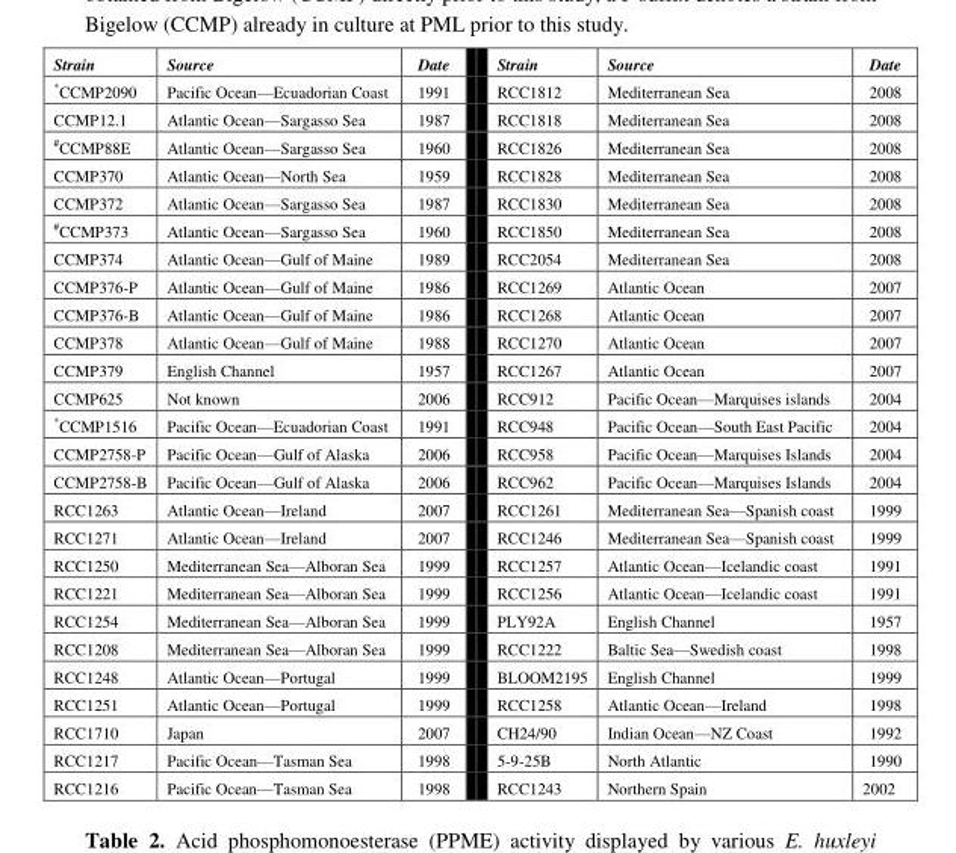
<table><thead><tr><td>Strain</td><td>Source</td><td>Date</td><td>Strain</td><td>Source</td><td>Date</td></tr></thead><tbody><tr><td>*CCMP2090</td><td>Pacific Ocean—Ecuadorian Coast</td><td>1991</td><td>RCC1812</td><td>Mediterranean Sea</td><td>2008</td></tr><tr><td>CCMP12.1</td><td>Atlantic Ocean—Sargasso Sea</td><td>1987</td><td>RCC1818</td><td>Mediterranean Sea</td><td>2008</td></tr><tr><td>#CCMP88E</td><td>Atlantic Ocean—Sargasso Sea</td><td>1960</td><td>RCC1826</td><td>Mediterranean Sea</td><td>2008</td></tr><tr><td>CCMP370</td><td>Atlantic Ocean—North Sea</td><td>1959</td><td>RCC1828</td><td>Mediterranean Sea</td><td>2008</td></tr><tr><td>CCMP372</td><td>Atlantic Ocean—Sargasso Sea</td><td>1987</td><td>RCC1830</td><td>Mediterranean Sea</td><td>2008</td></tr><tr><td>#CCMP373</td><td>Atlantic Ocean—Sargasso Sea</td><td>1960</td><td>RCC1850</td><td>Mediterranean Sea</td><td>2008</td></tr><tr><td>CCMP374</td><td>Atlantic Ocean—Gulf of Maine</td><td>1989</td><td>RCC2054</td><td>Mediterranean Sea</td><td>2008</td></tr><tr><td>CCMP376-P</td><td>Atlantic Ocean—Gulf of Maine</td><td>1986</td><td>RCC1269</td><td>Atlantic Ocean</td><td>2007</td></tr><tr><td>CCMP376-B</td><td>Atlantic Ocean—Gulf of Maine</td><td>1986</td><td>RCC1268</td><td>Atlantic Ocean</td><td>2007</td></tr><tr><td>CCMP378</td><td>Atlantic Ocean—Gulf of Maine</td><td>1988</td><td>RCC1270</td><td>Atlantic Ocean</td><td>2007</td></tr><tr><td>CCMP379</td><td>English Channel</td><td>1957</td><td>RCC1267</td><td>Atlantic Ocean</td><td>2007</td></tr><tr><td>CCMP625</td><td>Not known</td><td>2006</td><td>RCC912</td><td>Pacific Ocean—Marquises islands</td><td>2004</td></tr><tr><td>*CCMP1516</td><td>Pacific Ocean—Ecuadorian Coast</td><td>1991</td><td>RCC948</td><td>Pacific Ocean—South East Pacific</td><td>2004</td></tr><tr><td>CCMP2758-P</td><td>Pacific Ocean—Gulf of Alaska</td><td>2006</td><td>RCC958</td><td>Pacific Ocean—Marquises Islands</td><td>2004</td></tr><tr><td>CCMP2758-B</td><td>Pacific Ocean—Gulf of Alaska</td><td>2006</td><td>RCC962</td><td>Pacific Ocean—Marquises Islands</td><td>2004</td></tr><tr><td>RCC1263</td><td>Atlantic Ocean—Ireland</td><td>2007</td><td>RCC1261</td><td>Mediterranean Sea—Spanish coast</td><td>1999</td></tr><tr><td>RCC1271</td><td>Atlantic Ocean—Ireland</td><td>2007</td><td>RCC1246</td><td>Mediterranean Sea—Spanish coast</td><td>1999</td></tr><tr><td>RCC1250</td><td>Mediterranean Sea—Alboran Sea</td><td>1999</td><td>RCC1257</td><td>Atlantic Ocean—Icelandic coast</td><td>1991</td></tr><tr><td>RCC1221</td><td>Mediterranean Sea—Alboran Sea</td><td>1999</td><td>RCC1256</td><td>Atlantic Ocean—Icelandic coast</td><td>1991</td></tr><tr><td>RCC1254</td><td>Mediterranean Sea—Alboran Sea</td><td>1999</td><td>PLY92A</td><td>English Channel</td><td>1957</td></tr><tr><td>RCC1208</td><td>Mediterranean Sea—Alboran Sea</td><td>1999</td><td>RCC1222</td><td>Baltic Sea—Swedish coast</td><td>1998</td></tr><tr><td>RCC1248</td><td>Atlantic Ocean—Portugal</td><td>1999</td><td>BLOOM2195</td><td>English Channel</td><td>1999</td></tr><tr><td>RCC1251</td><td>Atlantic Ocean—Portugal</td><td>1999</td><td>RCC1258</td><td>Atlantic Ocean—Ireland</td><td>1998</td></tr><tr><td>RCC1710</td><td>Japan</td><td>2007</td><td>CH24/90</td><td>Indian Ocean—NZ Coast</td><td>1992</td></tr><tr><td>RCC1217</td><td>Pacific Ocean—Tasman Sea</td><td>1998</td><td>5-9-25B</td><td>North Atlantic</td><td>1990</td></tr><tr><td>RCC1216</td><td>Pacific Ocean—Tasman Sea</td><td>1998</td><td>RCC1243</td><td>Northern Spain</td><td>2002</td></tr></tbody></table>